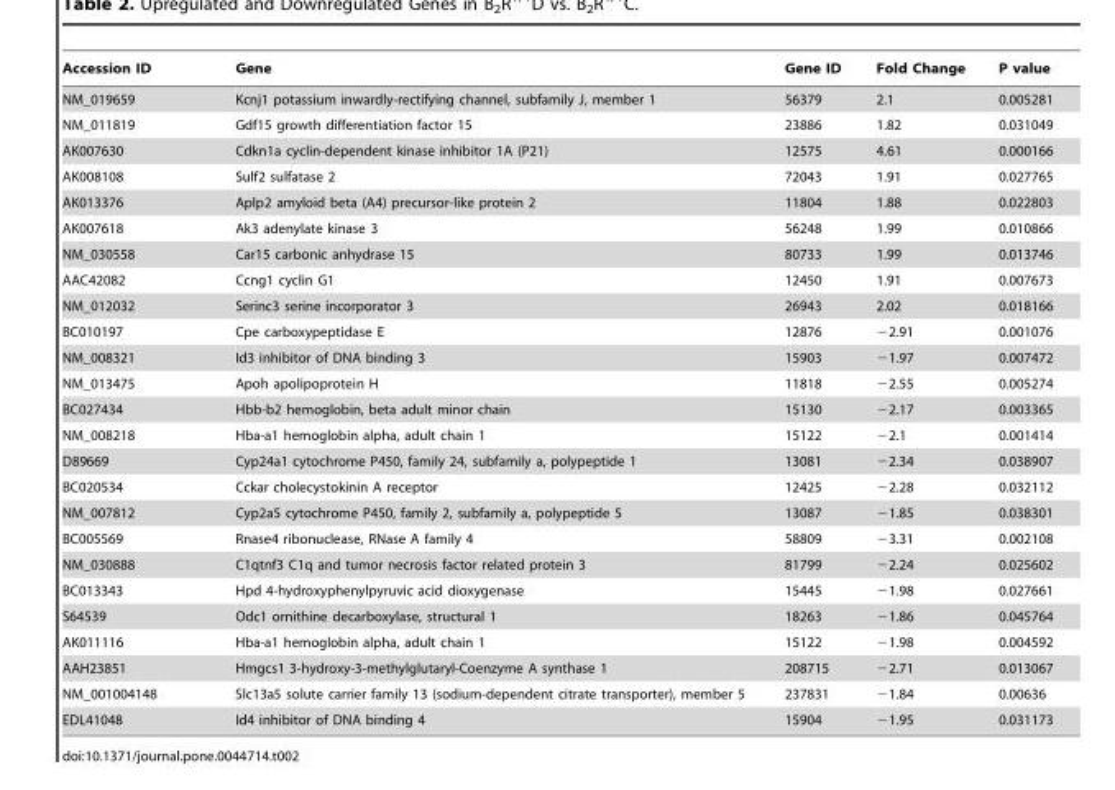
<table><thead><tr><td>Accession ID</td><td>Gene</td><td>Gene ID</td><td>Fold Change</td><td>P value</td></tr></thead><tbody><tr><td>NM_019659</td><td>Kcnj1 potassium inwardly-rectifying channel, subfamily J, member 1</td><td>56379</td><td>2.1</td><td>0.005281</td></tr><tr><td>NM_011819</td><td>Gdf15 growth differentiation factor 15</td><td>23886</td><td>1.82</td><td>0.031049</td></tr><tr><td>AK007630</td><td>Cdkn1a cyclin-dependent kinase inhibitor 1A (P21)</td><td>12575</td><td>4.61</td><td>0.000166</td></tr><tr><td>AK008108</td><td>Sulf2 sulfatase 2</td><td>72043</td><td>1.91</td><td>0.027765</td></tr><tr><td>AK013376</td><td>Aplp2 amyloid beta (A4) precursor-like protein 2</td><td>11804</td><td>1.88</td><td>0.022803</td></tr><tr><td>AK007618</td><td>Ak3 adenylate kinase 3</td><td>56248</td><td>1.99</td><td>0.010866</td></tr><tr><td>NM_030558</td><td>Car15 carbonic anhydrase 15</td><td>80733</td><td>1.99</td><td>0.013746</td></tr><tr><td>AAC42082</td><td>Ccng1 cyclin G1</td><td>12450</td><td>1.91</td><td>0.007673</td></tr><tr><td>NM_012032</td><td>Serinc3 serine incorporator 3</td><td>26943</td><td>2.02</td><td>0.018166</td></tr><tr><td>BC010197</td><td>Cpe carboxypeptidase E</td><td>12876</td><td>−2.91</td><td>0.001076</td></tr><tr><td>NM_008321</td><td>Id3 inhibitor of DNA binding 3</td><td>15903</td><td>−1.97</td><td>0.007472</td></tr><tr><td>NM_013475</td><td>Apoh apolipoprotein H</td><td>11818</td><td>−2.55</td><td>0.005274</td></tr><tr><td>BC027434</td><td>Hbb-b2 hemoglobin, beta adult minor chain</td><td>15130</td><td>−2.17</td><td>0.003365</td></tr><tr><td>NM_008218</td><td>Hba-a1 hemoglobin alpha, adult chain 1</td><td>15122</td><td>−2.1</td><td>0.001414</td></tr><tr><td>D89669</td><td>Cyp24a1 cytochrome P450, family 24, subfamily a, polypeptide 1</td><td>13081</td><td>−2.34</td><td>0.038907</td></tr><tr><td>BC020534</td><td>Cckar cholecystokinin A receptor</td><td>12425</td><td>−2.28</td><td>0.032112</td></tr><tr><td>NM_007812</td><td>Cyp2a5 cytochrome P450, family 2, subfamily a, polypeptide 5</td><td>13087</td><td>−1.85</td><td>0.038301</td></tr><tr><td>BC005569</td><td>Rnase4 ribonuclease, RNase A family 4</td><td>58809</td><td>−3.31</td><td>0.002108</td></tr><tr><td>NM_030888</td><td>C1qtnf3 C1q and tumor necrosis factor related protein 3</td><td>81799</td><td>−2.24</td><td>0.025602</td></tr><tr><td>BC013343</td><td>Hpd 4-hydroxyphenylpyruvic acid dioxygenase</td><td>15445</td><td>−1.98</td><td>0.027661</td></tr><tr><td>S64539</td><td>Odc1 ornithine decarboxylase, structural 1</td><td>18263</td><td>−1.86</td><td>0.045764</td></tr><tr><td>AK011116</td><td>Hba-a1 hemoglobin alpha, adult chain 1</td><td>15122</td><td>−1.98</td><td>0.004592</td></tr><tr><td>AAH23851</td><td>Hmgcs1 3-hydroxy-3-methylglutaryl-Coenzyme A synthase 1</td><td>208715</td><td>−2.71</td><td>0.013067</td></tr><tr><td>NM_001004148</td><td>Slc13a5 solute carrier family 13 (sodium-dependent citrate transporter), member 5</td><td>237831</td><td>−1.84</td><td>0.00636</td></tr><tr><td>EDL41048</td><td>Id4 inhibitor of DNA binding 4</td><td>15904</td><td>−1.95</td><td>0.031173</td></tr></tbody></table>